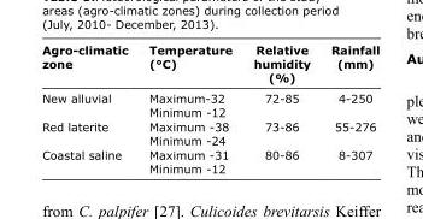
<table><thead><tr><td>Agro-climatic zone</td><td>Temperature (°C)</td><td>Relative humidity (%)</td><td>Rainfall (mm)</td></tr></thead><tbody><tr><td>New alluvial</td><td>Maximum-32 Minimum -12</td><td>72-85</td><td>4-250</td></tr><tr><td>Red laterite</td><td>Maximum -38 Minimum -24</td><td>73-86</td><td>55-276</td></tr><tr><td>Coastal saline</td><td>Maximum -31 Minimum -12</td><td>80-86</td><td>8-307</td></tr></tbody></table>